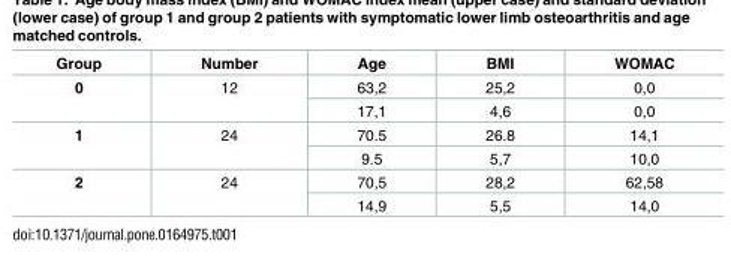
<table><thead><tr><td>Group</td><td>Number</td><td>Age</td><td>BMI</td><td>WOMAC</td></tr></thead><tbody><tr><td rowspan="2">0</td><td rowspan="2">12</td><td>63,2</td><td>25,2</td><td>0,0</td></tr><tr><td>17,1</td><td>4,6</td><td>0,0</td></tr><tr><td rowspan="2">1</td><td rowspan="2">24</td><td>70.5</td><td>26.8</td><td>14,1</td></tr><tr><td>9.5</td><td>5,7</td><td>10,0</td></tr><tr><td rowspan="2">2</td><td rowspan="2">24</td><td>70,5</td><td>28,2</td><td>62,58</td></tr><tr><td>14,9</td><td>5,5</td><td>14,0</td></tr></tbody></table>